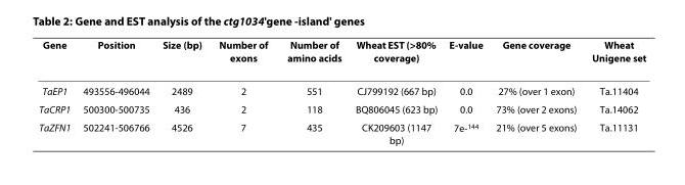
<table><thead><tr><td>Gene</td><td>Position</td><td>Size (bp)</td><td>Number of exons</td><td>Number of amino acids</td><td>Wheat EST (&gt;80% coverage)</td><td>E-value</td><td>Gene coverage</td><td>Wheat Unigene set</td></tr></thead><tbody><tr><td>TaEP1</td><td>493556-496044</td><td>2489</td><td>2</td><td>551</td><td>CJ799192 (667 bp)</td><td>0.0</td><td>27% (over 1 exon)</td><td>Ta.11404</td></tr><tr><td>TaCRP1</td><td>500300-500735</td><td>436</td><td>2</td><td>118</td><td>BQ806045 (623 bp)</td><td>0.0</td><td>73% (over 2 exons)</td><td>Ta.14062</td></tr><tr><td>TaZFN1</td><td>502241-506766</td><td>4526</td><td>7</td><td>435</td><td>CK209603 (1147 bp)</td><td>7e-<sup>144</sup></td><td>21% (over 5 exons)</td><td>Ta.11131</td></tr></tbody></table>